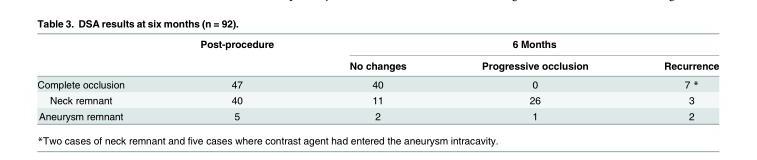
<table><thead><tr><td rowspan="2"></td><td rowspan="2">Post-procedure</td><td colspan="3">6 Months</td></tr><tr><td>No changes</td><td>Progressive occlusion</td><td>Recurrence</td></tr></thead><tbody><tr><td>Complete occlusion</td><td>47</td><td>40</td><td>0</td><td>7 *</td></tr><tr><td>Neck remnant</td><td>40</td><td>11</td><td>26</td><td>3</td></tr><tr><td>Aneurysm remnant</td><td>5</td><td>2</td><td>1</td><td>2</td></tr></tbody></table>